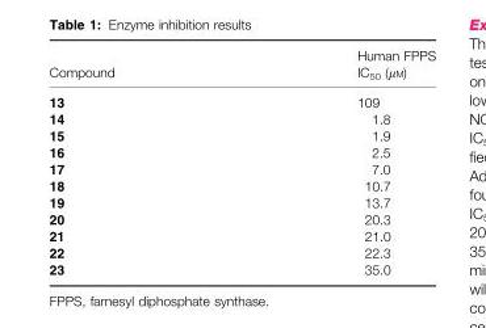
<table><thead><tr><td>Compound</td><td>Human FPPS IC<sub>50</sub> (μM)</td></tr></thead><tbody><tr><td>13</td><td>109</td></tr><tr><td>14</td><td>1.8</td></tr><tr><td>15</td><td>1.9</td></tr><tr><td>16</td><td>2.5</td></tr><tr><td>17</td><td>7.0</td></tr><tr><td>18</td><td>10.7</td></tr><tr><td>19</td><td>13.7</td></tr><tr><td>20</td><td>20.3</td></tr><tr><td>21</td><td>21.0</td></tr><tr><td>22</td><td>22.3</td></tr><tr><td>23</td><td>35.0</td></tr></tbody></table>